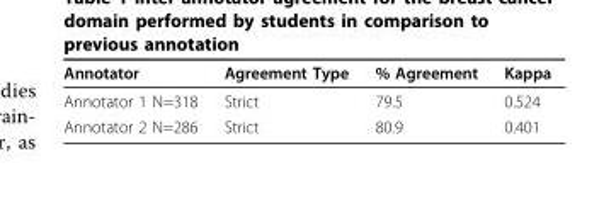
<table><thead><tr><td>Annotator</td><td>Agreement Type</td><td>% Agreement</td><td>Kappa</td></tr></thead><tbody><tr><td>Annotator 1 N=318</td><td>Strict</td><td>79.5</td><td>0.524</td></tr><tr><td>Annotator 2 N=286</td><td>Strict</td><td>80.9</td><td>0.401</td></tr></tbody></table>